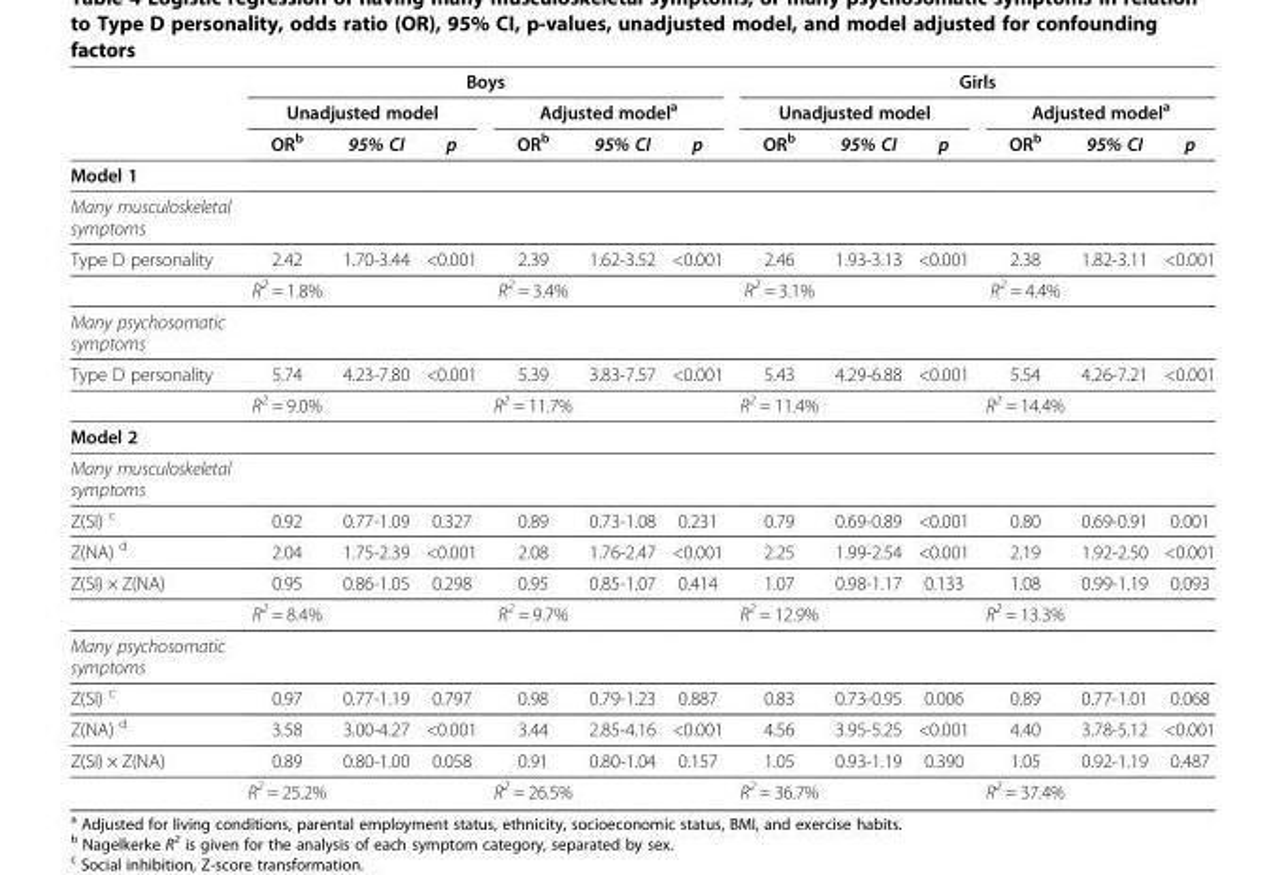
<table><thead><tr><td rowspan="3"></td><td colspan="6">Boys</td><td colspan="6">Girls</td></tr><tr><td colspan="3">Unadjusted model</td><td colspan="3">Adjusted model<sup>a</sup></td><td colspan="3">Unadjusted model</td><td colspan="3">Adjusted model<sup>a</sup></td></tr><tr><td>OR<sup>b</sup></td><td>95% CI</td><td>p</td><td>OR<sup>b</sup></td><td>95% CI</td><td>p</td><td>OR<sup>b</sup></td><td>95% CI</td><td>p</td><td>OR<sup>b</sup></td><td>95% CI</td><td>p</td></tr></thead><tbody><tr><td colspan="13">Model 1</td></tr><tr><td colspan="13">Many musculoskeletal symptoms</td></tr><tr><td rowspan="2">Type D personality</td><td>2.42</td><td>1.70-3.44</td><td>&lt;0.001</td><td>2.39</td><td>1.62-3.52</td><td>&lt;0.001</td><td>2.46</td><td>1.93-3.13</td><td>&lt;0.001</td><td>2.38</td><td>1.82-3.11</td><td>&lt;0.001</td></tr><tr><td>R<sup>2</sup> = 1.8%</td><td></td><td></td><td>R<sup>2</sup> = 3.4%</td><td></td><td></td><td>R<sup>2</sup> = 3.1%</td><td></td><td></td><td>R<sup>2</sup> = 4.4%</td><td></td><td></td></tr><tr><td colspan="13">Many psychosomatic symptoms</td></tr><tr><td rowspan="2">Type D personality</td><td>5.74</td><td>4.23-7.80</td><td>&lt;0.001</td><td>5.39</td><td>3.83-7.57</td><td>&lt;0.001</td><td>5.43</td><td>4.29-6.88</td><td>&lt;0.001</td><td>5.54</td><td>4.26-7.21</td><td>&lt;0.001</td></tr><tr><td>R<sup>2</sup> = 9.0%</td><td></td><td></td><td>R<sup>2</sup> = 11.7%</td><td></td><td></td><td>R<sup>2</sup> = 11.4%</td><td></td><td></td><td>R<sup>2</sup> = 14.4%</td><td></td><td></td></tr><tr><td colspan="13">Model 2</td></tr><tr><td colspan="13">Many musculoskeletal symptoms</td></tr><tr><td>Z(SI) <sup>c</sup></td><td>0.92</td><td>0.77-1.09</td><td>0.327</td><td>0.89</td><td>0.73-1.08</td><td>0.231</td><td>0.79</td><td>0.69-0.89</td><td>&lt;0.001</td><td>0.80</td><td>0.69-0.91</td><td>0.001</td></tr><tr><td>Z(NA) <sup>d</sup></td><td>2.04</td><td>1.75-2.39</td><td>&lt;0.001</td><td>2.08</td><td>1.76-2.47</td><td>&lt;0.001</td><td>2.25</td><td>1.99-2.54</td><td>&lt;0.001</td><td>2.19</td><td>1.92-2.50</td><td>&lt;0.001</td></tr><tr><td rowspan="2">Z(SI) × Z(NA)</td><td>0.95</td><td>0.86-1.05</td><td>0.298</td><td>0.95</td><td>0.85-1.07</td><td>0.414</td><td>1.07</td><td>0.98-1.17</td><td>0.133</td><td>1.08</td><td>0.99-1.19</td><td>0.093</td></tr><tr><td>R<sup>2</sup> = 8.4%</td><td></td><td></td><td>R<sup>2</sup> = 9.7%</td><td></td><td></td><td>R<sup>2</sup> = 12.9%</td><td></td><td></td><td>R<sup>2</sup> = 13.3%</td><td></td><td></td></tr><tr><td colspan="13">Many psychosomatic symptoms</td></tr><tr><td>Z(SI) <sup>c</sup></td><td>0.97</td><td>0.77-1.19</td><td>0.797</td><td>0.98</td><td>0.79-1.23</td><td>0.887</td><td>0.83</td><td>0.73-0.95</td><td>0.006</td><td>0.89</td><td>0.77-1.01</td><td>0.068</td></tr><tr><td>Z(NA) <sup>d</sup></td><td>3.58</td><td>3.00-4.27</td><td>&lt;0.001</td><td>3.44</td><td>2.85-4.16</td><td>&lt;0.001</td><td>4.56</td><td>3.95-5.25</td><td>&lt;0.001</td><td>4.40</td><td>3.78-5.12</td><td>&lt;0.001</td></tr><tr><td rowspan="2">Z(SI) × Z(NA)</td><td>0.89</td><td>0.80-1.00</td><td>0.058</td><td>0.91</td><td>0.80-1.04</td><td>0.157</td><td>1.05</td><td>0.93-1.19</td><td>0.390</td><td>1.05</td><td>0.92-1.19</td><td>0.487</td></tr><tr><td>R<sup>2</sup> = 25.2%</td><td></td><td></td><td>R<sup>2</sup> = 26.5%</td><td></td><td></td><td>R<sup>2</sup> = 36.7%</td><td></td><td></td><td>R<sup>2</sup> = 37.4%</td><td></td><td></td></tr></tbody></table>